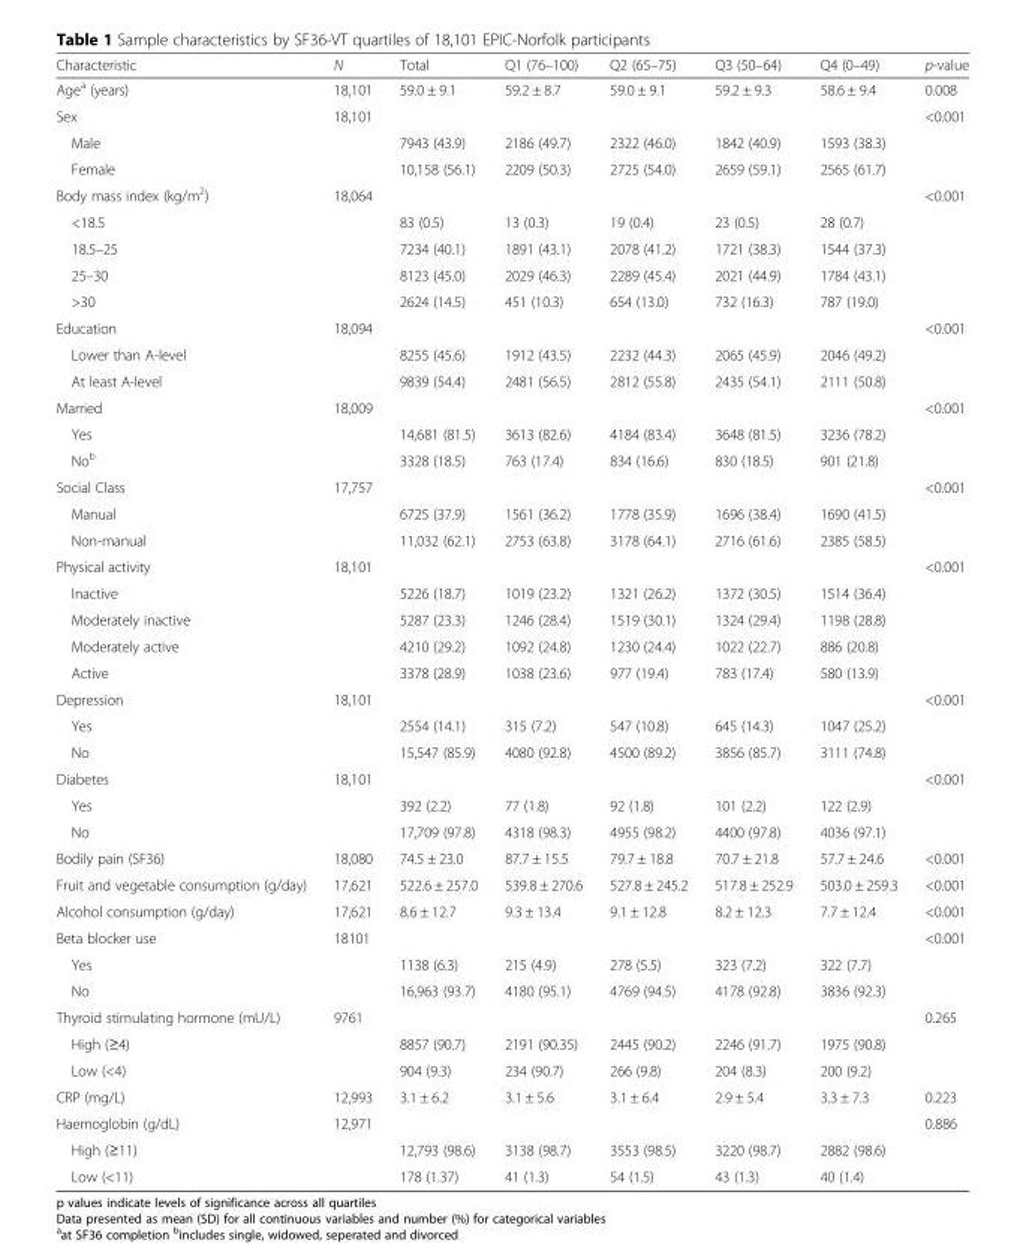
<table><thead><tr><td>Characteristic</td><td>N</td><td>Total</td><td>Q1 (76–100)</td><td>Q2 (65–75)</td><td>Q3 (50–64)</td><td>Q4 (0–49)</td><td>p-value</td></tr></thead><tbody><tr><td>Age<sup>a</sup> (years)</td><td>18,101</td><td>59.0 ± 9.1</td><td>59.2 ± 8.7</td><td>59.0 ± 9.1</td><td>59.2 ± 9.3</td><td>58.6 ± 9.4</td><td>0.008</td></tr><tr><td>Sex</td><td>18,101</td><td></td><td></td><td></td><td></td><td></td><td rowspan="3">&lt;0.001</td></tr><tr><td>Male</td><td></td><td>7943 (43.9)</td><td>2186 (49.7)</td><td>2322 (46.0)</td><td>1842 (40.9)</td><td>1593 (38.3)</td></tr><tr><td>Female</td><td></td><td>10,158 (56.1)</td><td>2209 (50.3)</td><td>2725 (54.0)</td><td>2659 (59.1)</td><td>2565 (61.7)</td></tr><tr><td>Body mass index (kg/m<sup>2</sup>)</td><td>18,064</td><td></td><td></td><td></td><td></td><td></td><td rowspan="5">&lt;0.001</td></tr><tr><td>&lt;18.5</td><td></td><td>83 (0.5)</td><td>13 (0.3)</td><td>19 (0.4)</td><td>23 (0.5)</td><td>28 (0.7)</td></tr><tr><td>18.5–25</td><td></td><td>7234 (40.1)</td><td>1891 (43.1)</td><td>2078 (41.2)</td><td>1721 (38.3)</td><td>1544 (37.3)</td></tr><tr><td>25–30</td><td></td><td>8123 (45.0)</td><td>2029 (46.3)</td><td>2289 (45.4)</td><td>2021 (44.9)</td><td>1784 (43.1)</td></tr><tr><td>&gt;30</td><td></td><td>2624 (14.5)</td><td>451 (10.3)</td><td>654 (13.0)</td><td>732 (16.3)</td><td>787 (19.0)</td></tr><tr><td>Education</td><td>18,094</td><td></td><td></td><td></td><td></td><td></td><td rowspan="3">&lt;0.001</td></tr><tr><td>Lower than A-level</td><td></td><td>8255 (45.6)</td><td>1912 (43.5)</td><td>2232 (44.3)</td><td>2065 (45.9)</td><td>2046 (49.2)</td></tr><tr><td>At least A-level</td><td></td><td>9839 (54.4)</td><td>2481 (56.5)</td><td>2812 (55.8)</td><td>2435 (54.1)</td><td>2111 (50.8)</td></tr><tr><td>Married</td><td>18,009</td><td></td><td></td><td></td><td></td><td></td><td rowspan="3">&lt;0.001</td></tr><tr><td>Yes</td><td></td><td>14,681 (81.5)</td><td>3613 (82.6)</td><td>4184 (83.4)</td><td>3648 (81.5)</td><td>3236 (78.2)</td></tr><tr><td>No<sup>b</sup></td><td></td><td>3328 (18.5)</td><td>763 (17.4)</td><td>834 (16.6)</td><td>830 (18.5)</td><td>901 (21.8)</td></tr><tr><td>Social Class</td><td>17,757</td><td></td><td></td><td></td><td></td><td></td><td rowspan="3">&lt;0.001</td></tr><tr><td>Manual</td><td></td><td>6725 (37.9)</td><td>1561 (36.2)</td><td>1778 (35.9)</td><td>1696 (38.4)</td><td>1690 (41.5)</td></tr><tr><td>Non-manual</td><td></td><td>11,032 (62.1)</td><td>2753 (63.8)</td><td>3178 (64.1)</td><td>2716 (61.6)</td><td>2385 (58.5)</td></tr><tr><td>Physical activity</td><td>18,101</td><td></td><td></td><td></td><td></td><td></td><td rowspan="5">&lt;0.001</td></tr><tr><td>Inactive</td><td></td><td>5226 (18.7)</td><td>1019 (23.2)</td><td>1321 (26.2)</td><td>1372 (30.5)</td><td>1514 (36.4)</td></tr><tr><td>Moderately inactive</td><td></td><td>5287 (23.3)</td><td>1246 (28.4)</td><td>1519 (30.1)</td><td>1324 (29.4)</td><td>1198 (28.8)</td></tr><tr><td>Moderately active</td><td></td><td>4210 (29.2)</td><td>1092 (24.8)</td><td>1230 (24.4)</td><td>1022 (22.7)</td><td>886 (20.8)</td></tr><tr><td>Active</td><td></td><td>3378 (28.9)</td><td>1038 (23.6)</td><td>977 (19.4)</td><td>783 (17.4)</td><td>580 (13.9)</td></tr><tr><td>Depression</td><td>18,101</td><td></td><td></td><td></td><td></td><td></td><td rowspan="3">&lt;0.001</td></tr><tr><td>Yes</td><td></td><td>2554 (14.1)</td><td>315 (7.2)</td><td>547 (10.8)</td><td>645 (14.3)</td><td>1047 (25.2)</td></tr><tr><td>No</td><td></td><td>15,547 (85.9)</td><td>4080 (92.8)</td><td>4500 (89.2)</td><td>3856 (85.7)</td><td>3111 (74.8)</td></tr><tr><td>Diabetes</td><td>18,101</td><td></td><td></td><td></td><td></td><td></td><td rowspan="3">&lt;0.001</td></tr><tr><td>Yes</td><td></td><td>392 (2.2)</td><td>77 (1.8)</td><td>92 (1.8)</td><td>101 (2.2)</td><td>122 (2.9)</td></tr><tr><td>No</td><td></td><td>17,709 (97.8)</td><td>4318 (98.3)</td><td>4955 (98.2)</td><td>4400 (97.8)</td><td>4036 (97.1)</td></tr><tr><td>Bodily pain (SF36)</td><td>18,080</td><td>74.5 ± 23.0</td><td>87.7 ± 15.5</td><td>79.7 ± 18.8</td><td>70.7 ± 21.8</td><td>57.7 ± 24.6</td><td>&lt;0.001</td></tr><tr><td>Fruit and vegetable consumption (g/day)</td><td>17,621</td><td>522.6 ± 257.0</td><td>539.8 ± 270.6</td><td>527.8 ± 245.2</td><td>517.8 ± 252.9</td><td>503.0 ± 259.3</td><td>&lt;0.001</td></tr><tr><td>Alcohol consumption (g/day)</td><td>17,621</td><td>8.6 ± 12.7</td><td>9.3 ± 13.4</td><td>9.1 ± 12.8</td><td>8.2 ± 12.3</td><td>7.7 ± 12.4</td><td>&lt;0.001</td></tr><tr><td>Beta blocker use</td><td>18101</td><td></td><td></td><td></td><td></td><td></td><td rowspan="3">&lt;0.001</td></tr><tr><td>Yes</td><td></td><td>1138 (6.3)</td><td>215 (4.9)</td><td>278 (5.5)</td><td>323 (7.2)</td><td>322 (7.7)</td></tr><tr><td>No</td><td></td><td>16,963 (93.7)</td><td>4180 (95.1)</td><td>4769 (94.5)</td><td>4178 (92.8)</td><td>3836 (92.3)</td></tr><tr><td>Thyroid stimulating hormone (mU/L)</td><td>9761</td><td></td><td></td><td></td><td></td><td></td><td rowspan="3">0.265</td></tr><tr><td>High (≥4)</td><td></td><td>8857 (90.7)</td><td>2191 (90.35)</td><td>2445 (90.2)</td><td>2246 (91.7)</td><td>1975 (90.8)</td></tr><tr><td>Low (&lt;4)</td><td></td><td>904 (9.3)</td><td>234 (90.7)</td><td>266 (9.8)</td><td>204 (8.3)</td><td>200 (9.2)</td></tr><tr><td>CRP (mg/L)</td><td>12,993</td><td>3.1 ± 6.2</td><td>3.1 ± 5.6</td><td>3.1 ± 6.4</td><td>2.9 ± 5.4</td><td>3.3 ± 7.3</td><td>0.223</td></tr><tr><td>Haemoglobin (g/dL)</td><td>12,971</td><td></td><td></td><td></td><td></td><td></td><td rowspan="3">0.886</td></tr><tr><td>High (≥11)</td><td></td><td>12,793 (98.6)</td><td>3138 (98.7)</td><td>3553 (98.5)</td><td>3220 (98.7)</td><td>2882 (98.6)</td></tr><tr><td>Low (&lt;11)</td><td></td><td>178 (1.37)</td><td>41 (1.3)</td><td>54 (1.5)</td><td>43 (1.3)</td><td>40 (1.4)</td></tr></tbody></table>